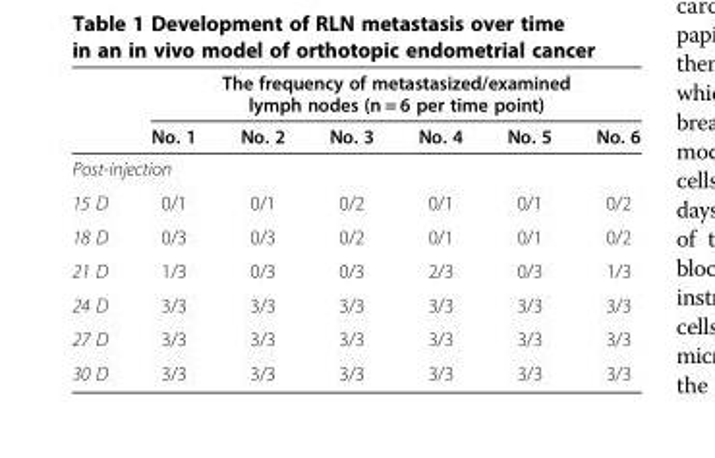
<table><thead><tr><td rowspan="2"></td><td colspan="6">The frequency of metastasized/examined lymph nodes (n = 6 per time point)</td></tr><tr><td>No. 1</td><td>No. 2</td><td>No. 3</td><td>No. 4</td><td>No. 5</td><td>No. 6</td></tr></thead><tbody><tr><td colspan="7">Post-injection</td></tr><tr><td>15 D</td><td>0/1</td><td>0/1</td><td>0/2</td><td>0/1</td><td>0/1</td><td>0/2</td></tr><tr><td>18 D</td><td>0/3</td><td>0/3</td><td>0/2</td><td>0/1</td><td>0/1</td><td>0/2</td></tr><tr><td>21 D</td><td>1/3</td><td>0/3</td><td>0/3</td><td>2/3</td><td>0/3</td><td>1/3</td></tr><tr><td>24 D</td><td>3/3</td><td>3/3</td><td>3/3</td><td>3/3</td><td>3/3</td><td>3/3</td></tr><tr><td>27 D</td><td>3/3</td><td>3/3</td><td>3/3</td><td>3/3</td><td>3/3</td><td>3/3</td></tr><tr><td>30 D</td><td>3/3</td><td>3/3</td><td>3/3</td><td>3/3</td><td>3/3</td><td>3/3</td></tr></tbody></table>